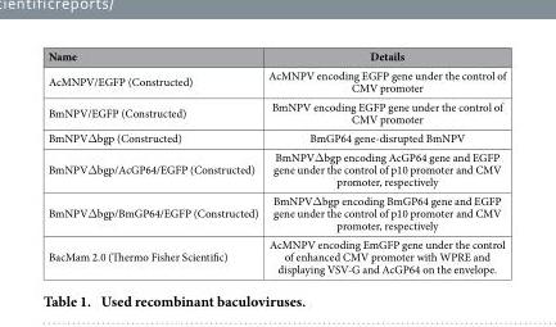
<table><thead><tr><td>Name</td><td>Details</td></tr></thead><tbody><tr><td>AcMNPV/EGFP (Constructed)</td><td>AcMNPV encoding EGFP gene under the control of CMV promoter</td></tr><tr><td>BmNPV/EGFP (Constructed)</td><td>BmNPV encoding EGFP gene under the control of CMV promoter</td></tr><tr><td>BmNPVΔ bgp (Constructed)</td><td>BmGP64 gene-disrupted BmNPV</td></tr><tr><td>BmNPVΔ bgp/AcGP64/EGFP (Constructed)</td><td>BmNPVΔ bgp encoding AcGP64 gene and EGFP gene under the control of p10 promoter and CMV promoter, respectively</td></tr><tr><td>BmNPVΔ bgp/BmGP64/EGFP (Constructed)</td><td>BmNPVΔ bgp encoding BmGP64 gene and EGFP gene under the control of p10 promoter and CMV promoter, respectively</td></tr><tr><td>BacMam 2.0 (Thermo Fisher Scientific)</td><td>AcMNPV encoding EmGFP gene under the control of enhanced CMV promoter with WPRE and displaying VSV-G and AcGP64 on the envelope.</td></tr></tbody></table>